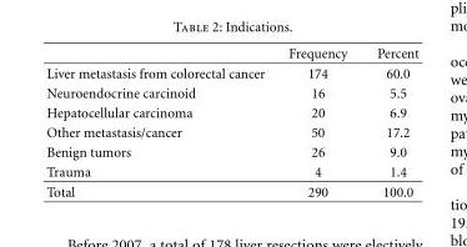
<table><thead><tr><td></td><td>Frequency</td><td>Percent</td></tr></thead><tbody><tr><td>Liver metastasis from colorectal cancer</td><td>174</td><td>60.0</td></tr><tr><td>Neuroendocrine carcinoid</td><td>16</td><td>5.5</td></tr><tr><td>Hepatocellular carcinoma</td><td>20</td><td>6.9</td></tr><tr><td>Other metastasis/cancer</td><td>50</td><td>17.2</td></tr><tr><td>Benign tumors</td><td>26</td><td>9.0</td></tr><tr><td>Trauma</td><td>4</td><td>1.4</td></tr><tr><td>Total</td><td>290</td><td>100.0</td></tr></tbody></table>